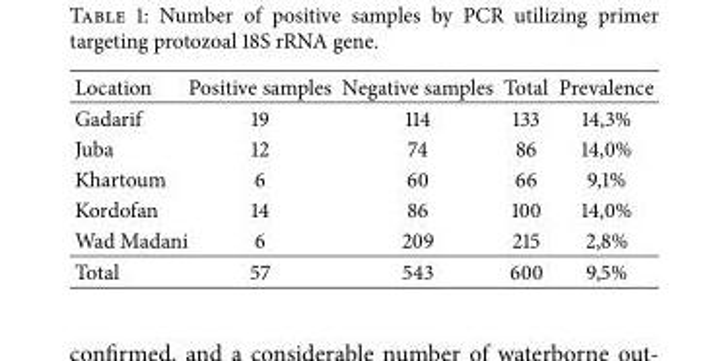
<table><thead><tr><td>Location</td><td>Positive samples</td><td>Negative samples</td><td>Total</td><td>Prevalence</td></tr></thead><tbody><tr><td>Gadarif</td><td>19</td><td>114</td><td>133</td><td>14,3%</td></tr><tr><td>Juba</td><td>12</td><td>74</td><td>86</td><td>14,0%</td></tr><tr><td>Khartoum</td><td>6</td><td>60</td><td>66</td><td>9,1%</td></tr><tr><td>Kordofan</td><td>14</td><td>86</td><td>100</td><td>14,0%</td></tr><tr><td>Wad Madani</td><td>6</td><td>209</td><td>215</td><td>2,8%</td></tr><tr><td>Total</td><td>57</td><td>543</td><td>600</td><td>9,5%</td></tr></tbody></table>